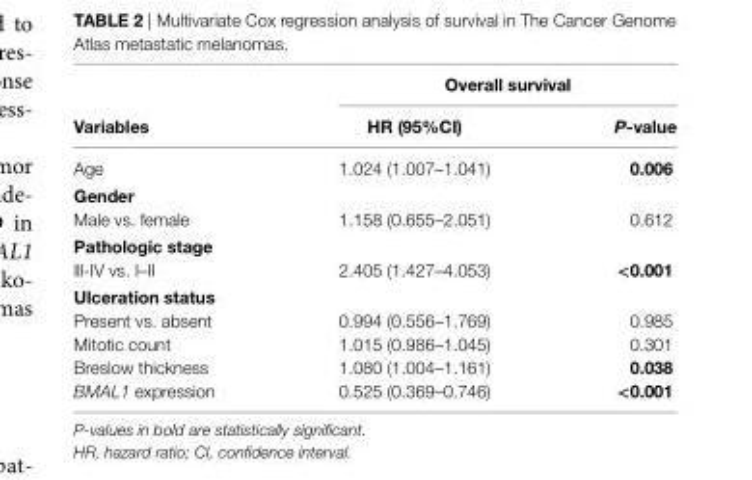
<table><thead><tr><td rowspan="2">Variables</td><td colspan="2">Overall survival</td></tr><tr><td>hr (95%ci)</td><td>P-value</td></tr></thead><tbody><tr><td>Age</td><td>1.024 (1.007–1.041)</td><td>0.006</td></tr><tr><td colspan="3">gender</td></tr><tr><td>Male vs. female</td><td>1.158 (0.655–2.051)</td><td>0.612</td></tr><tr><td colspan="3">Pathologic stage</td></tr><tr><td>lll-IV vs. I–II</td><td>2.405 (1.427–4.053)</td><td>&lt;0.001</td></tr><tr><td colspan="3">Ulceration status</td></tr><tr><td>Present vs. absent</td><td>0.994 (0.556–1.769)</td><td>0.985</td></tr><tr><td>Mitotic count</td><td>1.015 (0.986–1.045)</td><td>0.301</td></tr><tr><td>Breslow thickness</td><td>1.080 (1.004–1.161)</td><td>0.038</td></tr><tr><td>BMAL1 expression</td><td>0.525 (0.369–0.746)</td><td>&lt;0.001</td></tr></tbody></table>